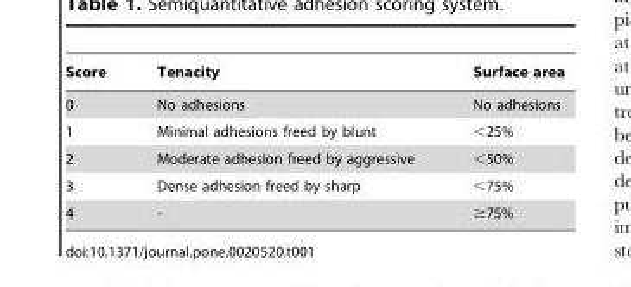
<table><thead><tr><td>Score</td><td>Tenacity</td><td>Surface area</td></tr></thead><tbody><tr><td>0</td><td>No adhesions</td><td>No adhesions</td></tr><tr><td>1</td><td>Minimal adhesions freed by blunt</td><td>&lt;25%</td></tr><tr><td>2</td><td>Moderate adhesion freed by aggressive</td><td>&lt;50%</td></tr><tr><td>3</td><td>Dense adhesion freed by sharp</td><td>&lt;75%</td></tr><tr><td>4</td><td>-</td><td>≥75%</td></tr></tbody></table>